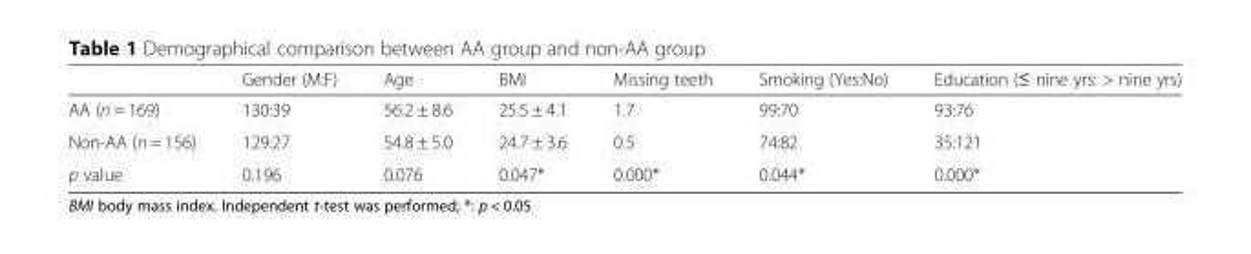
<table><thead><tr><td></td><td>Gender (M:F)</td><td>Age</td><td>BMI</td><td>Missing teeth</td><td>Smoking (Yes:No)</td><td>Education (≤ nine yrs: &gt; nine yrs)</td></tr></thead><tbody><tr><td>AA (n = 169)</td><td>130:39</td><td>56.2 ± 8.6</td><td>25.5 ± 4.1</td><td>1.7</td><td>99:70</td><td>93:76</td></tr><tr><td>Non-AA (n = 156)</td><td>129:27</td><td>54.8 ± 5.0</td><td>24.7 ± 3.6</td><td>0.5</td><td>74:82</td><td>35:121</td></tr><tr><td>p value</td><td>0.196</td><td>0.076</td><td>0.047*</td><td>0.000*</td><td>0.044*</td><td>0.000*</td></tr></tbody></table>